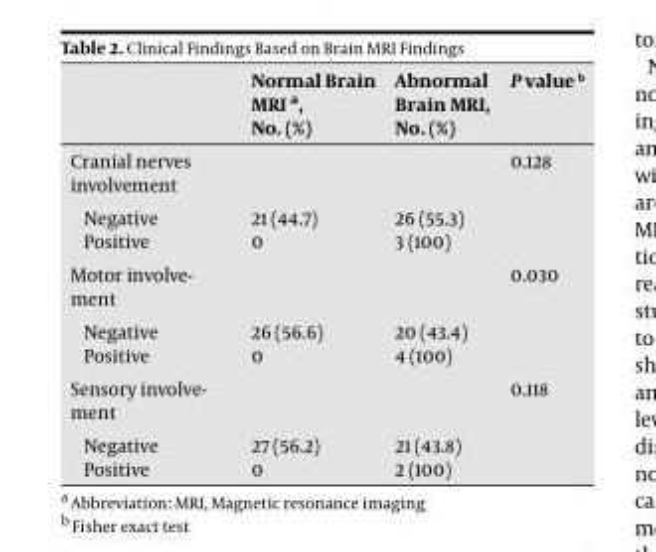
<table><thead><tr><td></td><td>normal Brain Mri a, no. (%)</td><td>abnormal Brain Mri, no. (%)</td><td>P value b</td></tr></thead><tbody><tr><td>Cranial nerves involvement</td><td></td><td></td><td>0.128</td></tr><tr><td>Negative</td><td>21 (44.7)</td><td>26 (55.3)</td><td></td></tr><tr><td>Positive</td><td>0</td><td>3 (100)</td><td></td></tr><tr><td>Motor involve- ment</td><td></td><td></td><td>0.030</td></tr><tr><td>Negative</td><td>26 (56.6)</td><td>20 (43.4)</td><td></td></tr><tr><td>Positive</td><td>0</td><td>4 (100)</td><td></td></tr><tr><td>Sensory involve- ment</td><td></td><td></td><td>0.118</td></tr><tr><td>Negative</td><td>27 (56.2)</td><td>21 (43.8)</td><td></td></tr><tr><td>Positive</td><td>0</td><td>2 (100)</td><td></td></tr></tbody></table>